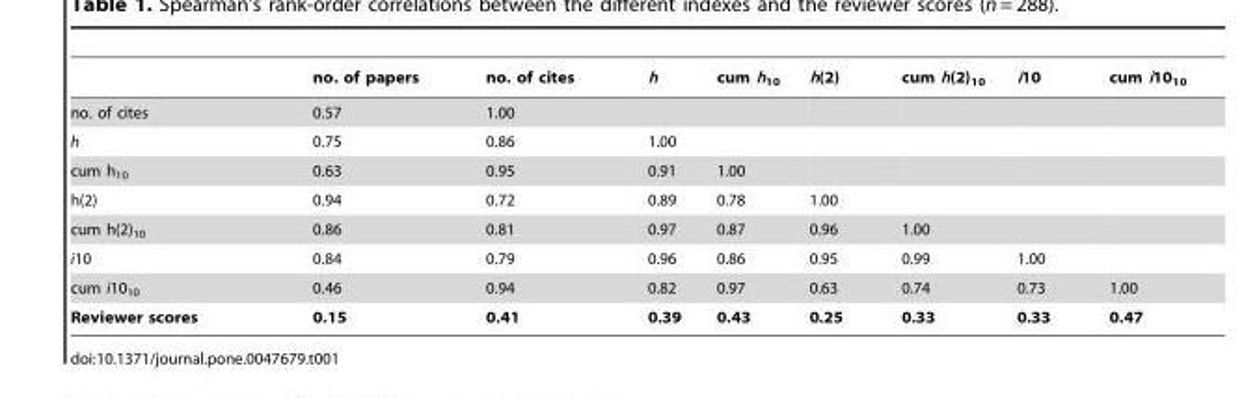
<table><thead><tr><td></td><td>no. of papers</td><td>no. of cites</td><td>h</td><td>cum h<sub>10</sub></td><td>h(2)</td><td>cum h(2)<sub>10</sub></td><td>i10</td><td>cum i10<sub>10</sub></td></tr></thead><tbody><tr><td>no. of cites</td><td>0.57</td><td>1.00</td><td></td><td></td><td></td><td></td><td></td><td></td></tr><tr><td>h</td><td>0.75</td><td>0.86</td><td>1.00</td><td></td><td></td><td></td><td></td><td></td></tr><tr><td>cum h<sub>10</sub></td><td>0.63</td><td>0.95</td><td>0.91</td><td>1.00</td><td></td><td></td><td></td><td></td></tr><tr><td>h(2)</td><td>0.94</td><td>0.72</td><td>0.89</td><td>0.78</td><td>1.00</td><td></td><td></td><td></td></tr><tr><td>cum h(2)<sub>10</sub></td><td>0.86</td><td>0.81</td><td>0.97</td><td>0.87</td><td>0.96</td><td>1.00</td><td></td><td></td></tr><tr><td>i10</td><td>0.84</td><td>0.79</td><td>0.96</td><td>0.86</td><td>0.95</td><td>0.99</td><td>1.00</td><td></td></tr><tr><td>cum i10<sub>10</sub></td><td>0.46</td><td>0.94</td><td>0.82</td><td>0.97</td><td>0.63</td><td>0.74</td><td>0.73</td><td>1.00</td></tr><tr><td>Reviewer scores</td><td>0.15</td><td>0.41</td><td>0.39</td><td>0.43</td><td>0.25</td><td>0.33</td><td>0.33</td><td>0.47</td></tr></tbody></table>